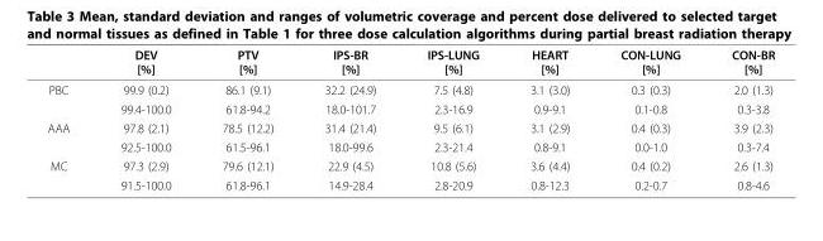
<table><thead><tr><td></td><td>DEV [%]</td><td>PTV [%]</td><td>IPS-BR [%]</td><td>IPS-LUNG [%]</td><td>HEART [%]</td><td>CON-LUNG [%]</td><td>CON-BR [%]</td></tr></thead><tbody><tr><td rowspan="2">PBC</td><td>99.9 (0.2)</td><td>86.1 (9.1)</td><td>32.2 (24.9)</td><td>7.5 (4.8)</td><td>3.1 (3.0)</td><td>0.3 (0.3)</td><td>2.0 (1.3)</td></tr><tr><td>99.4-100.0</td><td>61.8-94.2</td><td>18.0-101.7</td><td>2.3-16.9</td><td>0.9-9.1</td><td>0.1-0.8</td><td>0.3-3.8</td></tr><tr><td rowspan="2">AAA</td><td>97.8 (2.1)</td><td>78.5 (12.2)</td><td>31.4 (21.4)</td><td>9.5 (6.1)</td><td>3.1 (2.9)</td><td>0.4 (0.3)</td><td>3.9 (2.3)</td></tr><tr><td>92.5-100.0</td><td>61.5-96.1</td><td>18.0-99.6</td><td>2.3-21.4</td><td>0.8-9.1</td><td>0.0-1.0</td><td>0.3-7.4</td></tr><tr><td rowspan="2">MC</td><td>97.3 (2.9)</td><td>79.6 (12.1)</td><td>22.9 (4.5)</td><td>10.8 (5.6)</td><td>3.6 (4.4)</td><td>0.4 (0.2)</td><td>2.6 (1.3)</td></tr><tr><td>91.5-100.0</td><td>61.8-96.1</td><td>14.9-28.4</td><td>2.8-20.9</td><td>0.8-12.3</td><td>0.2-0.7</td><td>0.8-4.6</td></tr></tbody></table>